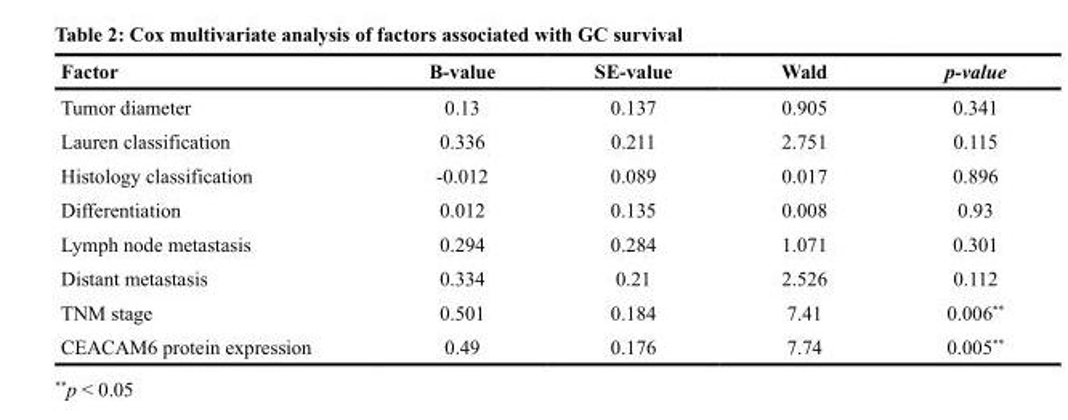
<table><thead><tr><td>Factor</td><td>B-value</td><td>SE-value</td><td>Wald</td><td>p-value</td></tr></thead><tbody><tr><td>Tumor diameter</td><td>0.13</td><td>0.137</td><td>0.905</td><td>0.341</td></tr><tr><td>Lauren classification</td><td>0.336</td><td>0.211</td><td>2.751</td><td>0.115</td></tr><tr><td>Histology classification</td><td>-0.012</td><td>0.089</td><td>0.017</td><td>0.896</td></tr><tr><td>Differentiation</td><td>0.012</td><td>0.135</td><td>0.008</td><td>0.93</td></tr><tr><td>Lymph node metastasis</td><td>0.294</td><td>0.284</td><td>1.071</td><td>0.301</td></tr><tr><td>Distant metastasis</td><td>0.334</td><td>0.21</td><td>2.526</td><td>0.112</td></tr><tr><td>TNM stage</td><td>0.501</td><td>0.184</td><td>7.41</td><td>0.006**</td></tr><tr><td>CEACAM6 protein expression</td><td>0.49</td><td>0.176</td><td>7.74</td><td>0.005**</td></tr></tbody></table>